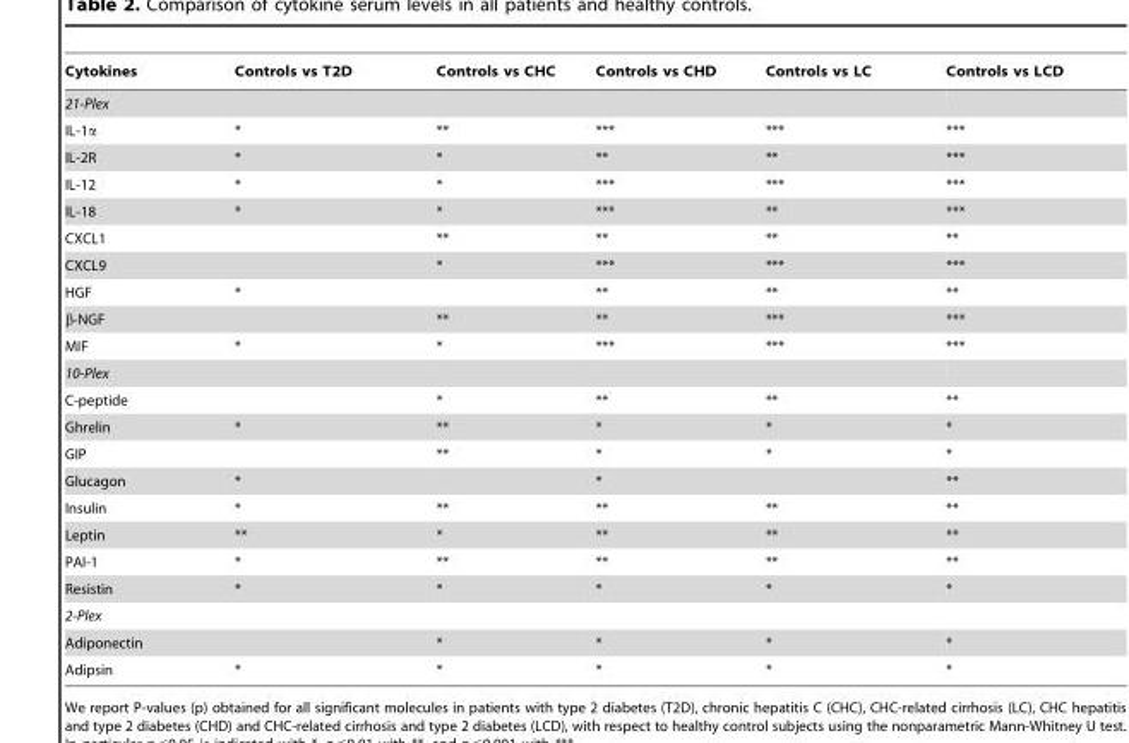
<table><thead><tr><td>Cytokines</td><td>Controls vs T2D</td><td>Controls vs CHC</td><td>Controls vs CHD</td><td>Controls vs LC</td><td>Controls vs LCD</td></tr></thead><tbody><tr><td colspan="6">21-Plex</td></tr><tr><td>IL-1α</td><td>*</td><td>**</td><td>***</td><td>***</td><td>***</td></tr><tr><td>IL-2R</td><td>*</td><td>*</td><td>**</td><td>**</td><td>***</td></tr><tr><td>IL-12</td><td>*</td><td>*</td><td>***</td><td>***</td><td>***</td></tr><tr><td>IL-18</td><td>*</td><td>*</td><td>***</td><td>**</td><td>***</td></tr><tr><td>CXCL1</td><td></td><td>**</td><td>**</td><td>**</td><td>**</td></tr><tr><td>CXCL9</td><td></td><td>*</td><td>***</td><td>***</td><td>***</td></tr><tr><td>HGF</td><td>*</td><td></td><td>**</td><td>**</td><td>**</td></tr><tr><td>β-NGF</td><td></td><td>**</td><td>**</td><td>***</td><td>***</td></tr><tr><td>MIF</td><td>*</td><td>*</td><td>***</td><td>***</td><td>***</td></tr><tr><td colspan="6">10-Plex</td></tr><tr><td>C-peptide</td><td></td><td>*</td><td>**</td><td>**</td><td>**</td></tr><tr><td>Ghrelin</td><td>*</td><td>**</td><td>*</td><td>*</td><td>*</td></tr><tr><td>GIP</td><td></td><td>**</td><td>*</td><td>*</td><td>*</td></tr><tr><td>Glucagon</td><td>*</td><td></td><td>*</td><td></td><td>**</td></tr><tr><td>Insulin</td><td>*</td><td>**</td><td>**</td><td>**</td><td>**</td></tr><tr><td>Leptin</td><td>**</td><td>*</td><td>**</td><td>**</td><td>**</td></tr><tr><td>PAI-1</td><td>*</td><td>**</td><td>**</td><td>**</td><td>**</td></tr><tr><td>Resistin</td><td>*</td><td>*</td><td>*</td><td>*</td><td>*</td></tr><tr><td colspan="6">2-Plex</td></tr><tr><td>Adiponectin</td><td></td><td>*</td><td>*</td><td>*</td><td>*</td></tr><tr><td>Adipsin</td><td>*</td><td>*</td><td>*</td><td>*</td><td>*</td></tr></tbody></table>